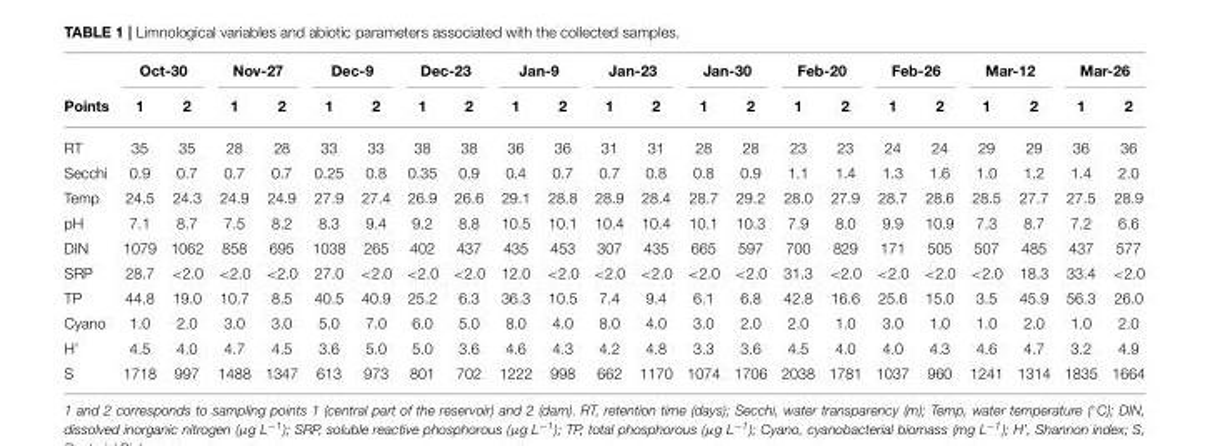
<table><thead><tr><td rowspan="2">Points</td><td colspan="2">Oct-30</td><td colspan="2">Nov-27</td><td colspan="2">Dec-9</td><td colspan="2">Dec-23</td><td colspan="2">Jan-9</td><td colspan="2">Jan-23</td><td colspan="2">Jan-30</td><td colspan="2">Feb-20</td><td colspan="2">Feb-26</td><td colspan="2">Mar-12</td><td colspan="2">Mar-26</td></tr><tr><td>1</td><td>2</td><td>1</td><td>2</td><td>1</td><td>2</td><td>1</td><td>2</td><td>1</td><td>2</td><td>1</td><td>2</td><td>1</td><td>2</td><td>1</td><td>2</td><td>1</td><td>2</td><td>1</td><td>2</td><td>1</td><td>2</td></tr></thead><tbody><tr><td>RT</td><td>35</td><td>35</td><td>28</td><td>28</td><td>33</td><td>33</td><td>38</td><td>38</td><td>36</td><td>36</td><td>31</td><td>31</td><td>28</td><td>28</td><td>23</td><td>23</td><td>24</td><td>24</td><td>29</td><td>29</td><td>36</td><td>36</td></tr><tr><td>Secchi</td><td>0.9</td><td>0.7</td><td>0.7</td><td>0.7</td><td>0.25</td><td>0.8</td><td>0.35</td><td>0.9</td><td>0.4</td><td>0.7</td><td>0.7</td><td>0.8</td><td>0.8</td><td>0.9</td><td>1.1</td><td>1.4</td><td>1.3</td><td>1.6</td><td>1.0</td><td>1.2</td><td>1.4</td><td>2.0</td></tr><tr><td>Temp</td><td>24.5</td><td>24.3</td><td>24.9</td><td>24.9</td><td>27.9</td><td>27.4</td><td>26.9</td><td>26.6</td><td>29.1</td><td>28.8</td><td>28.9</td><td>28.4</td><td>28.7</td><td>29.2</td><td>28.0</td><td>27.9</td><td>28.7</td><td>28.6</td><td>28.5</td><td>27.7</td><td>27.5</td><td>28.9</td></tr><tr><td>pH</td><td>7.1</td><td>8.7</td><td>7.5</td><td>8.2</td><td>8.3</td><td>9.4</td><td>9.2</td><td>8.8</td><td>10.5</td><td>10.1</td><td>10.4</td><td>10.4</td><td>10.1</td><td>10.3</td><td>7.9</td><td>8.0</td><td>9.9</td><td>10.9</td><td>7.3</td><td>8.7</td><td>7.2</td><td>6.6</td></tr><tr><td>DIN</td><td>1079</td><td>1062</td><td>858</td><td>695</td><td>1038</td><td>265</td><td>402</td><td>437</td><td>435</td><td>453</td><td>307</td><td>435</td><td>665</td><td>597</td><td>700</td><td>829</td><td>171</td><td>505</td><td>507</td><td>485</td><td>437</td><td>577</td></tr><tr><td>SRP</td><td>28.7</td><td>&lt;2.0</td><td>&lt;2.0</td><td>&lt;2.0</td><td>27.0</td><td>&lt;2.0</td><td>&lt;2.0</td><td>&lt;2.0</td><td>12.0</td><td>&lt;2.0</td><td>&lt;2.0</td><td>&lt;2.0</td><td>&lt;2.0</td><td>&lt;2.0</td><td>31.3</td><td>&lt;2.0</td><td>&lt;2.0</td><td>&lt;2.0</td><td>&lt;2.0</td><td>18.3</td><td>33.4</td><td>&lt;2.0</td></tr><tr><td>TP</td><td>44.8</td><td>19.0</td><td>10.7</td><td>8.5</td><td>40.5</td><td>40.9</td><td>25.2</td><td>6.3</td><td>36.3</td><td>10.5</td><td>7.4</td><td>9.4</td><td>6.1</td><td>6.8</td><td>42.8</td><td>16.6</td><td>25.6</td><td>15.0</td><td>3.5</td><td>45.9</td><td>56.3</td><td>26.0</td></tr><tr><td>Cyano</td><td>1.0</td><td>2.0</td><td>3.0</td><td>3.0</td><td>5.0</td><td>7.0</td><td>6.0</td><td>5.0</td><td>8.0</td><td>4.0</td><td>8.0</td><td>4.0</td><td>3.0</td><td>2.0</td><td>2.0</td><td>1.0</td><td>3.0</td><td>1.0</td><td>1.0</td><td>2.0</td><td>1.0</td><td>2.0</td></tr><tr><td>H’</td><td>4.5</td><td>4.0</td><td>4.7</td><td>4.5</td><td>3.6</td><td>5.0</td><td>5.0</td><td>3.6</td><td>4.6</td><td>4.3</td><td>4.2</td><td>4.8</td><td>3.3</td><td>3.6</td><td>4.5</td><td>4.0</td><td>4.0</td><td>4.3</td><td>4.6</td><td>4.7</td><td>3.2</td><td>4.9</td></tr><tr><td>S</td><td>1718</td><td>997</td><td>1488</td><td>1347</td><td>613</td><td>973</td><td>801</td><td>702</td><td>1222</td><td>998</td><td>662</td><td>1170</td><td>1074</td><td>1706</td><td>2038</td><td>1781</td><td>1037</td><td>960</td><td>1241</td><td>1314</td><td>1835</td><td>1664</td></tr></tbody></table>